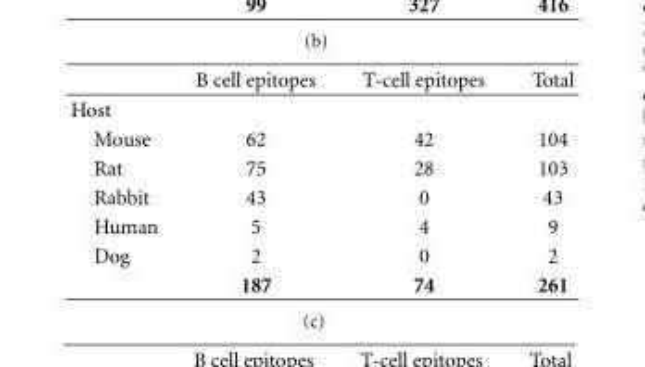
<table><thead><tr><td></td><td>B cell epitopes</td><td>T-cell epitopes</td><td>Total</td></tr></thead><tbody><tr><td colspan="4">Host</td></tr><tr><td>Mouse</td><td>62</td><td>42</td><td>104</td></tr><tr><td>Rat</td><td>75</td><td>28</td><td>103</td></tr><tr><td>Rabbit</td><td>43</td><td>0</td><td>43</td></tr><tr><td>Human</td><td>5</td><td>4</td><td>9</td></tr><tr><td rowspan="2">Dog</td><td>2</td><td>0</td><td>2</td></tr><tr><td>187</td><td>74</td><td>261</td></tr></tbody></table>